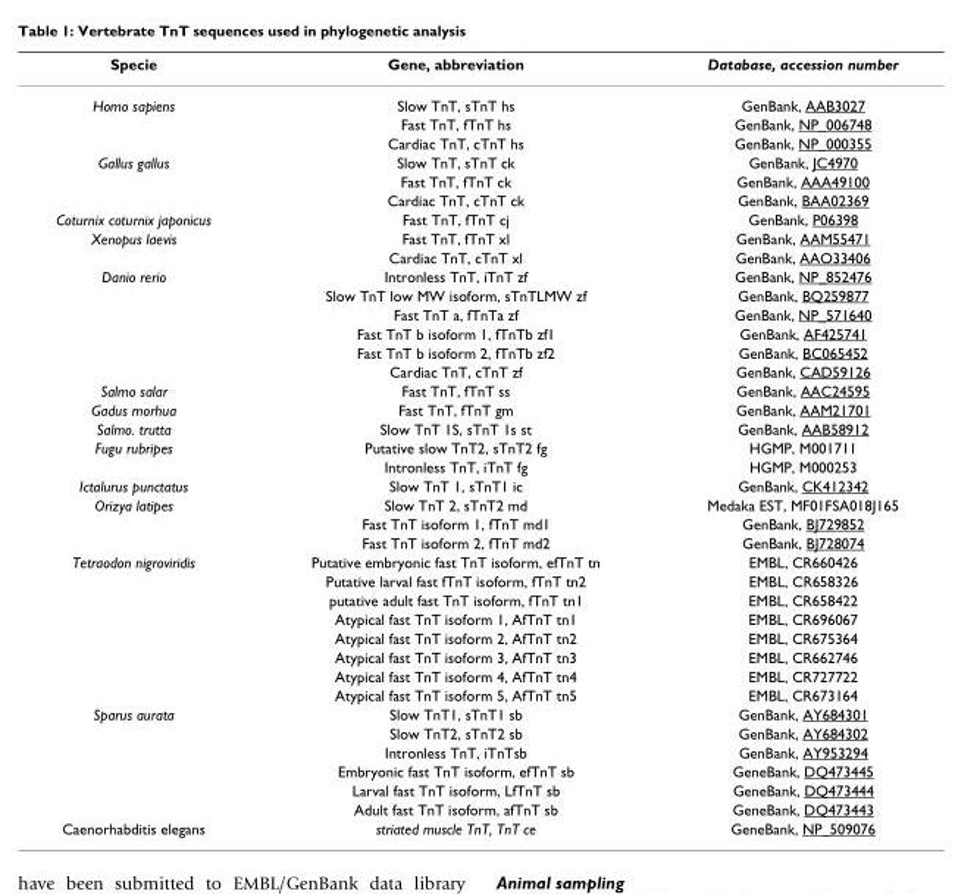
<table><thead><tr><td>Specie</td><td>Gene, abbreviation</td><td>Database, accession number</td></tr></thead><tbody><tr><td rowspan="3">Homo sapiens</td><td>Slow TnT, sTnT hs</td><td>GenBank, AAB3027</td></tr><tr><td>Fast TnT, fTnT hs</td><td>GenBank, NP_006748</td></tr><tr><td>Cardiac TnT, cTnT hs</td><td>GenBank, NP_000355</td></tr><tr><td rowspan="3">Gallus gallus</td><td>Slow TnT, sTnT ck</td><td>GenBank, JC4970</td></tr><tr><td>Fast TnT, fTnT ck</td><td>GenBank, AAA49100</td></tr><tr><td>Cardiac TnT, cTnT ck</td><td>GenBank, BAA02369</td></tr><tr><td>Coturnix coturnix japonicus</td><td>Fast TnT, fTnT cj</td><td>GenBank, P06398</td></tr><tr><td rowspan="2">Xenopus laevis</td><td>Fast TnT, fTnT xl</td><td>GenBank, AAM55471</td></tr><tr><td>Cardiac TnT, cTnT xl</td><td>GenBank, AAO33406</td></tr><tr><td rowspan="6">Danio rerio</td><td>Intronless TnT, iTnT zf</td><td>GenBank, NP_852476</td></tr><tr><td>Slow TnT low MW isoform, sTnTLMW zf</td><td>GenBank, BQ259877</td></tr><tr><td>Fast TnT a, fTnTa zf</td><td>GenBank, NP_571640</td></tr><tr><td>Fast TnT b isoform 1, fTnTb zf1</td><td>GenBank, AF425741</td></tr><tr><td>Fast TnT b isoform 2, fTnTb zf2</td><td>GenBank, BC065452</td></tr><tr><td>Cardiac TnT, cTnT zf</td><td>GenBank, CAD59126</td></tr><tr><td>Salmo salar</td><td>Fast TnT, fTnT ss</td><td>GenBank, AAC24595</td></tr><tr><td>Gadus morhua</td><td>Fast TnT, fTnT gm</td><td>GenBank, AAM21701</td></tr><tr><td>Salmo. trutta</td><td>Slow TnT 1S, sTnT 1s st</td><td>GenBank, AAB58912</td></tr><tr><td rowspan="2">Fugu rubripes</td><td>Putative slow TnT2, sTnT2 fg</td><td>HGMP, M001711</td></tr><tr><td>Intronless TnT, iTnT fg</td><td>HGMP, M000253</td></tr><tr><td>Ictalurus punctatus</td><td>Slow TnT 1, sTnT1 ic</td><td>GenBank, CK412342</td></tr><tr><td rowspan="3">Orizya latipes</td><td>Slow TnT 2, sTnT2 md</td><td>Medaka EST, MF01FSA018J165</td></tr><tr><td>Fast TnT isoform 1, fTnT md1</td><td>GenBank, BJ729852</td></tr><tr><td>Fast TnT isoform 2, fTnT md2</td><td>GenBank, BJ728074</td></tr><tr><td rowspan="8">Tetraodon nigroviridis</td><td>Putative embryonic fast TnT isoform, efTnT tn</td><td>EMBL, CR660426</td></tr><tr><td>Putative larval fast fTnT isoform, fTnT tn2</td><td>EMBL, CR658326</td></tr><tr><td>putative adult fast TnT isoform, fTnT tn1</td><td>EMBL, CR658422</td></tr><tr><td>Atypical fast TnT isoform 1, AfTnT tn1</td><td>EMBL, CR696067</td></tr><tr><td>Atypical fast TnT isoform 2, AfTnT tn2</td><td>EMBL, CR675364</td></tr><tr><td>Atypical fast TnT isoform 3, AfTnT tn3</td><td>EMBL, CR662746</td></tr><tr><td>Atypical fast TnT isoform 4, AfTnT tn4</td><td>EMBL, CR727722</td></tr><tr><td>Atypical fast TnT isoform 5, AfTnT tn5</td><td>EMBL, CR673164</td></tr><tr><td rowspan="6">Sparus aurata</td><td>Slow TnT1, sTnT1 sb</td><td>GenBank, AY684301</td></tr><tr><td>Slow TnT2, sTnT2 sb</td><td>GenBank, AY684302</td></tr><tr><td>Intronless TnT, iTnTsb</td><td>GenBank, AY953294</td></tr><tr><td>Embryonic fast TnT isoform, efTnT sb</td><td>GeneBank, DQ473445</td></tr><tr><td>Larval fast TnT isoform, LfTnT sb</td><td>GeneBank, DQ473444</td></tr><tr><td>Adult fast TnT isoform, afTnT sb</td><td>GeneBank, DQ473443</td></tr><tr><td>Caenorhabditis elegans</td><td>striated muscle TnT, TnT ce</td><td>GeneBank, NP_509076</td></tr></tbody></table>